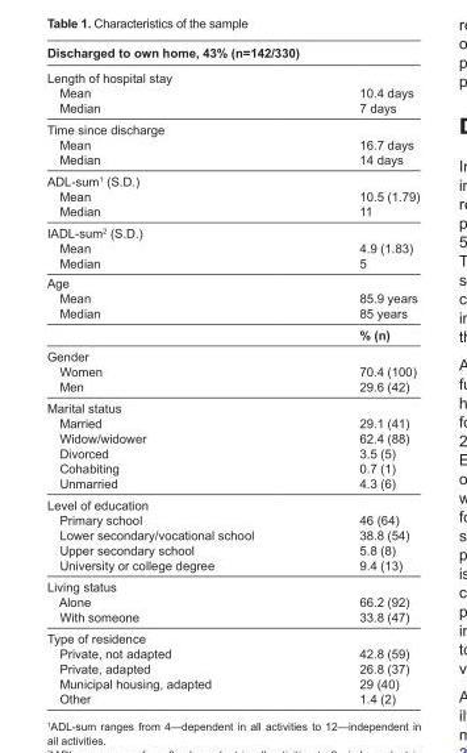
<table><thead><tr><td colspan="2">Discharged to own home, 43% (n=142/330)</td></tr><tr><td>Length of hospital stay</td><td></td></tr></thead><tbody><tr><td>Mean</td><td>10.4 days</td></tr><tr><td>Median</td><td>7 days</td></tr><tr><td colspan="2">Time since discharge</td></tr><tr><td>Mean</td><td>16.7 days</td></tr><tr><td>Median</td><td>14 days</td></tr><tr><td colspan="2">ADL-sum<sup>1</sup> (S.D.)</td></tr><tr><td>Mean</td><td>10.5 (1.79)</td></tr><tr><td>Median</td><td>11</td></tr><tr><td colspan="2">IADL-sum<sup>2</sup> (S.D.)</td></tr><tr><td>Mean</td><td>4.9 (1.83)</td></tr><tr><td>Median</td><td>5</td></tr><tr><td colspan="2">Age</td></tr><tr><td>Mean</td><td>85.9 years</td></tr><tr><td rowspan="2">Median</td><td>85 years</td></tr><tr><td>% (n)</td></tr><tr><td colspan="2">Gender</td></tr><tr><td>Women</td><td>70.4 (100)</td></tr><tr><td>Men</td><td>29.6 (42)</td></tr><tr><td colspan="2">Marital status</td></tr><tr><td>Married</td><td>29.1 (41)</td></tr><tr><td>Widow/widower</td><td>62.4 (88)</td></tr><tr><td>Divorced</td><td>3.5 (5)</td></tr><tr><td>Cohabiting</td><td>0.7 (1)</td></tr><tr><td>Unmarried</td><td>4.3 (6)</td></tr><tr><td colspan="2">Level of education</td></tr><tr><td>Primary school</td><td>46 (64)</td></tr><tr><td>Lower secondary/vocational school</td><td>38.8 (54)</td></tr><tr><td>Upper secondary school</td><td>5.8 (8)</td></tr><tr><td>University or college degree</td><td>9.4 (13)</td></tr><tr><td colspan="2">Living status</td></tr><tr><td>Alone</td><td>66.2 (92)</td></tr><tr><td>With someone</td><td>33.8 (47)</td></tr><tr><td colspan="2">Type of residence</td></tr><tr><td>Private, not adapted</td><td>42.8 (59)</td></tr><tr><td>Private, adapted</td><td>26.8 (37)</td></tr><tr><td>Municipal housing, adapted</td><td>29 (40)</td></tr><tr><td>Other</td><td>1.4 (2)</td></tr></tbody></table>